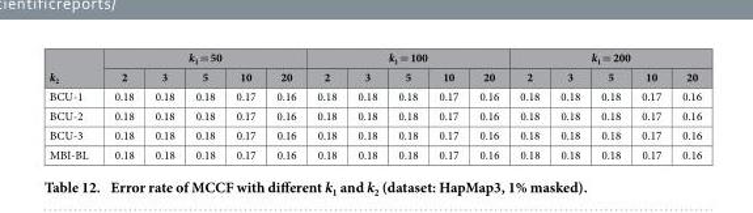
<table><thead><tr><td rowspan="2">k<sub>2</sub></td><td colspan="5">k<sub>1</sub> = 50</td><td colspan="5">k<sub>1</sub> = 100</td><td colspan="5">k<sub>1</sub> = 200</td></tr><tr><td>2</td><td>3</td><td>5</td><td>10</td><td>20</td><td>2</td><td>3</td><td>5</td><td>10</td><td>20</td><td>2</td><td>3</td><td>5</td><td>10</td><td>20</td></tr></thead><tbody><tr><td>BCU-1</td><td>0.18</td><td>0.18</td><td>0.18</td><td>0.17</td><td>0.16</td><td>0.18</td><td>0.18</td><td>0.18</td><td>0.17</td><td>0.16</td><td>0.18</td><td>0.18</td><td>0.18</td><td>0.17</td><td>0.16</td></tr><tr><td>BCU-2</td><td>0.18</td><td>0.18</td><td>0.18</td><td>0.17</td><td>0.16</td><td>0.18</td><td>0.18</td><td>0.18</td><td>0.17</td><td>0.16</td><td>0.18</td><td>0.18</td><td>0.18</td><td>0.17</td><td>0.16</td></tr><tr><td>BCU-3</td><td>0.18</td><td>0.18</td><td>0.18</td><td>0.17</td><td>0.16</td><td>0.18</td><td>0.18</td><td>0.18</td><td>0.17</td><td>0.16</td><td>0.18</td><td>0.18</td><td>0.18</td><td>0.17</td><td>0.16</td></tr><tr><td>MBI-BL</td><td>0.18</td><td>0.18</td><td>0.18</td><td>0.17</td><td>0.16</td><td>0.18</td><td>0.18</td><td>0.18</td><td>0.17</td><td>0.16</td><td>0.18</td><td>0.18</td><td>0.18</td><td>0.17</td><td>0.16</td></tr></tbody></table>